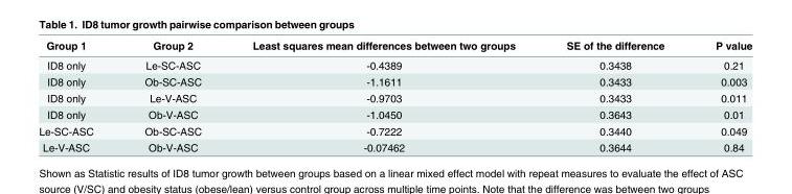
<table><thead><tr><td>Group 1</td><td>Group 2</td><td>Least squares mean differences between two groups</td><td>SE of the difference</td><td>P value</td></tr></thead><tbody><tr><td>ID8 only</td><td>Le-SC-ASC</td><td>-0.4389</td><td>0.3438</td><td>0.21</td></tr><tr><td>ID8 only</td><td>Ob-SC-ASC</td><td>-1.1611</td><td>0.3433</td><td>0.003</td></tr><tr><td>ID8 only</td><td>Le-V-ASC</td><td>-0.9703</td><td>0.3433</td><td>0.011</td></tr><tr><td>ID8 only</td><td>Ob-V-ASC</td><td>-1.0450</td><td>0.3643</td><td>0.01</td></tr><tr><td>Le-SC-ASC</td><td>Ob-SC-ASC</td><td>-0.7222</td><td>0.3440</td><td>0.049</td></tr><tr><td>Le-V-ASC</td><td>Ob-V-ASC</td><td>-0.07462</td><td>0.3644</td><td>0.84</td></tr></tbody></table>